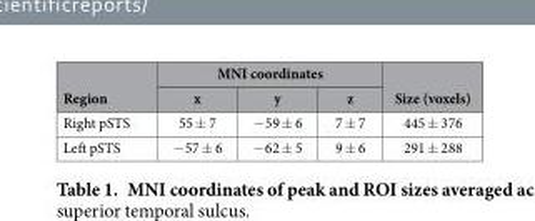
<table><thead><tr><td rowspan="2">Region</td><td colspan="3">MNI coordinates</td><td rowspan="2">Size (voxels)</td></tr><tr><td>x</td><td>y</td><td>z</td></tr></thead><tbody><tr><td>Right pSTS</td><td>55 ± 7</td><td>− 59 ± 6</td><td>7 ± 7</td><td>445 ± 376</td></tr><tr><td>Left pSTS</td><td>− 57 ± 6</td><td>− 62 ± 5</td><td>9 ± 6</td><td>291 ± 288</td></tr></tbody></table>